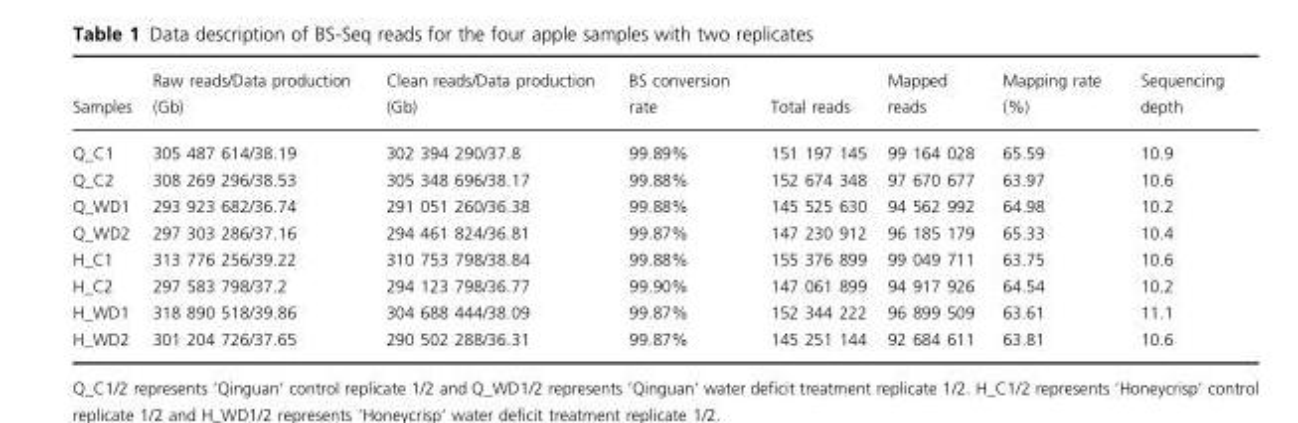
<table><thead><tr><td>Samples</td><td>Raw reads/Data production (Gb)</td><td>Clean reads/Data production (Gb)</td><td>BS conversion rate</td><td>Total reads</td><td>Mapped reads</td><td>Mapping rate (%)</td><td>Sequencing depth</td></tr></thead><tbody><tr><td>Q_C1</td><td>305 487 614/38.19</td><td>302 394 290/37.8</td><td>99.89%</td><td>151 197 145</td><td>99 164 028</td><td>65.59</td><td>10.9</td></tr><tr><td>Q_C2</td><td>308 269 296/38.53</td><td>305 348 696/38.17</td><td>99.88%</td><td>152 674 348</td><td>97 670 677</td><td>63.97</td><td>10.6</td></tr><tr><td>Q_WD1</td><td>293 923 682/36.74</td><td>291 051 260/36.38</td><td>99.88%</td><td>145 525 630</td><td>94 562 992</td><td>64.98</td><td>10.2</td></tr><tr><td>Q_WD2</td><td>297 303 286/37.16</td><td>294 461 824/36.81</td><td>99.87%</td><td>147 230 912</td><td>96 185 179</td><td>65.33</td><td>10.4</td></tr><tr><td>H_C1</td><td>313 776 256/39.22</td><td>310 753 798/38.84</td><td>99.88%</td><td>155 376 899</td><td>99 049 711</td><td>63.75</td><td>10.6</td></tr><tr><td>H_C2</td><td>297 583 798/37.2</td><td>294 123 798/36.77</td><td>99.90%</td><td>147 061 899</td><td>94 917 926</td><td>64.54</td><td>10.2</td></tr><tr><td>H_WD1</td><td>318 890 518/39.86</td><td>304 688 444/38.09</td><td>99.87%</td><td>152 344 222</td><td>96 899 509</td><td>63.61</td><td>11.1</td></tr><tr><td>H_WD2</td><td>301 204 726/37.65</td><td>290 502 288/36.31</td><td>99.87%</td><td>145 251 144</td><td>92 684 611</td><td>63.81</td><td>10.6</td></tr></tbody></table>